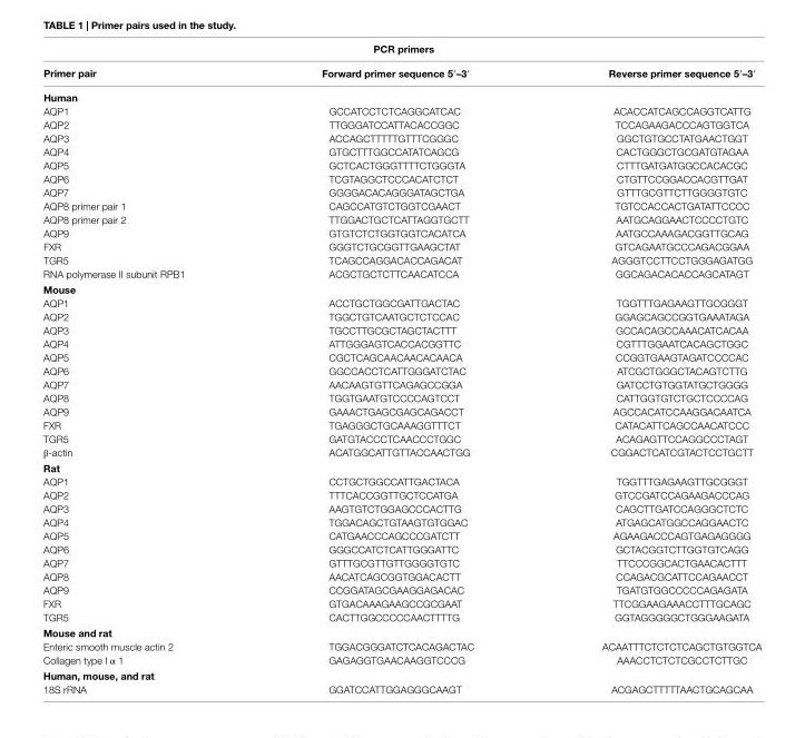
<table><thead><tr><td colspan="3">Pcr primers</td></tr><tr><td>Primer pair</td><td>Forward primer sequence 5′–3′</td><td>reverse primer sequence 5′–3′</td></tr></thead><tbody><tr><td colspan="3">human</td></tr><tr><td>AQP1</td><td>GCCATCCTCTCAGGCATCAC</td><td>ACACCATCAGCCAGGTCATTG</td></tr><tr><td>AQP2</td><td>TTGGGATCCATTACACCGGC</td><td>TCCAGAAGACCCAGTGGTCA</td></tr><tr><td>AQP3</td><td>ACCAGCTTTTTGTTTCGGGC</td><td>GGCTGTGCCTATGAACTGGT</td></tr><tr><td>AQP4</td><td>GTGCTTTGGCCATATCAGCG</td><td>CACTGGGCTGCGATGTAGAA</td></tr><tr><td>AQP5</td><td>GCTCACTGGGTTTTCTGGGTA</td><td>CTTTGATGATGGCCACACGC</td></tr><tr><td>AQP6</td><td>TCGTAGGCTCCCACATCTCT</td><td>CTGTTCCGGACCACGTTGAT</td></tr><tr><td>AQP7</td><td>GGGGACACAGGGATAGCTGA</td><td>GTTTGCGTTCTTGGGGTGTC</td></tr><tr><td>AQP8 primer pair 1</td><td>CAGCCATGTCTGGTCGAACT</td><td>TGTCCACCACTGATATTCCCC</td></tr><tr><td>AQP8 primer pair 2</td><td>TTGGACTGCTCATTAGGTGCTT</td><td>AATGCAGGAACTCCCCTGTC</td></tr><tr><td>AQP9</td><td>GTGTCTCTGGTGGTCACATCA</td><td>AATGCCAAAGACGGTTGCAG</td></tr><tr><td>FXR</td><td>GGGTCTGCGGTTGAAGCTAT</td><td>GTCAGAATGCCCAGACGGAA</td></tr><tr><td>TGR5</td><td>TCAGCCAGGACACCAGACAT</td><td>AGGGTCCTTCCTGGGAGATGG</td></tr><tr><td>RNA polymerase II subunit RPB1</td><td>ACGCTGCTCTTCAACATCCA</td><td>GGCAGACACACCAGCATAGT</td></tr><tr><td colspan="3">Mouse</td></tr><tr><td>AQP1</td><td>ACCTGCTGGCGATTGACTAC</td><td>TGGTTTGAGAAGTTGCGGGT</td></tr><tr><td>AQP2</td><td>TGGCTGTCAATGCTCTCCAC</td><td>GGAGCAGCCGGTGAAATAGA</td></tr><tr><td>AQP3</td><td>TGCCTTGCGCTAGCTACTTT</td><td>GCCACAGCCAAACATCACAA</td></tr><tr><td>AQP4</td><td>ATTGGGAGTCACCACGGTTC</td><td>CGTTTGGAATCACAGCTGGC</td></tr><tr><td>AQP5</td><td>CGCTCAGCAACAACACAACA</td><td>CCGGTGAAGTAGATCCCCAC</td></tr><tr><td>AQP6</td><td>GGCCACCTCATTGGGATCTAC</td><td>ATCGCTGGGCTACAGTCTTG</td></tr><tr><td>AQP7</td><td>AACAAGTGTTCAGAGCCGGA</td><td>GATCCTGTGGTATGCTGGGG</td></tr><tr><td>AQP8</td><td>TGGTGAATGTCCCCAGTCCT</td><td>CATTGGTGTCTGCTCCCCAG</td></tr><tr><td>AQP9</td><td>GAAACTGAGCGAGCAGACCT</td><td>AGCCACATCCAAGGACAATCA</td></tr><tr><td>FXR</td><td>TGAGGGCTGCAAAGGTTTCT</td><td>CATACATTCAGCCAACATCCC</td></tr><tr><td>TGR5</td><td>GATGTACCCTCAACCCTGGC</td><td>ACAGAGTTCCAGGCCCTAGT</td></tr><tr><td>β-actin</td><td>ACATGGCATTGTTACCAACTGG</td><td>CGGACTCATCGTACTCCTGCTT</td></tr><tr><td colspan="3">rat</td></tr><tr><td>AQP1</td><td>CCTGCTGGCCATTGACTACA</td><td>TGGTTTGAGAAGTTGCGGGT</td></tr><tr><td>AQP2</td><td>TTTCACCGGTTGCTCCATGA</td><td>GTCCGATCCAGAAGACCCAG</td></tr><tr><td>AQP3</td><td>AAGTGTCTGGAGCCCACTTG</td><td>CAGCTTGATCCAGGGCTCTC</td></tr><tr><td>AQP4</td><td>TGGACAGCTGTAAGTGTGGAC</td><td>ATGAGCATGGCCAGGAACTC</td></tr><tr><td>AQP5</td><td>CATGAACCCAGCCCGATCTT</td><td>AGAAGACCCAGTGAGAGGGG</td></tr><tr><td>AQP6</td><td>GGGCCATCTCATTGGGATTC</td><td>GCTACGGTCTTGGTGTCAGG</td></tr><tr><td>AQP7</td><td>GTTTGCGTTGTTGGGGTGTC</td><td>TTCCCGGCACTGAACACTTT</td></tr><tr><td>AQP8</td><td>AACATCAGCGGTGGACACTT</td><td>CCAGACGCATTCCAGAACCT</td></tr><tr><td>AQP9</td><td>CCGGATAGCGAAGGAGACAC</td><td>TGATGTGGCCCCCAGAGATA</td></tr><tr><td>FXR</td><td>GTGACAAAGAAGCCGCGAAT</td><td>TTCGGAAGAAACCTTTGCAGC</td></tr><tr><td>TGR5</td><td>CACTTGGCCCCCAACTTTTG</td><td>GGTAGGGGGCTGGGAAGATA</td></tr><tr><td colspan="3">Mouse and rat</td></tr><tr><td>Enteric smooth muscle actin 2</td><td>TGGACGGGATCTCACAGACTAC</td><td>ACAATTTCTCTCTCAGCTGTGGTCA</td></tr><tr><td>Collagen type I α 1</td><td>GAGAGGTGAACAAGGTCCCG</td><td>AAACCTCTCTCGCCTCTTGC</td></tr><tr><td colspan="3">human, mouse, and rat</td></tr><tr><td>18S rRNA</td><td>GGATCCATTGGAGGGCAAGT</td><td>ACGAGCTTTTTAACTGCAGCAA</td></tr></tbody></table>